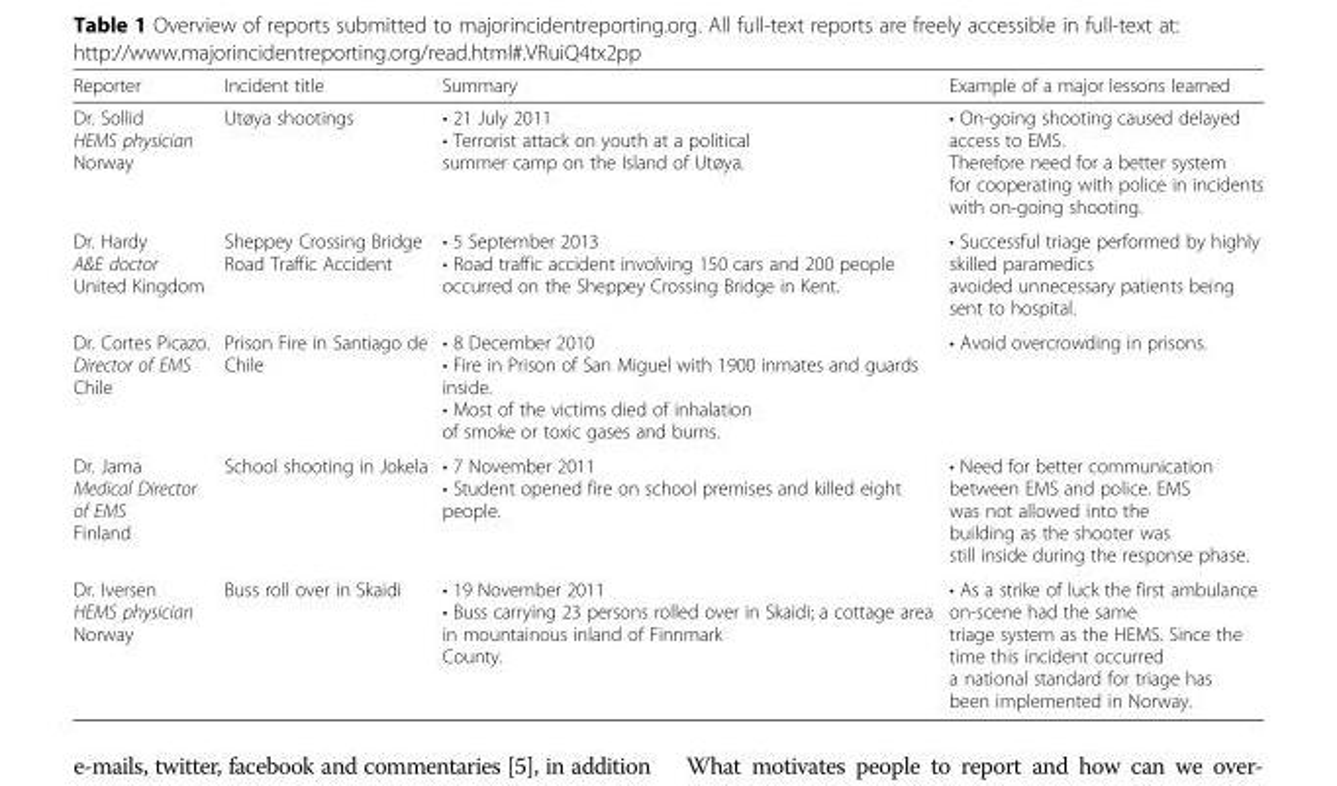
<table><thead><tr><td>Reporter</td><td>Incident title</td><td>Summary</td><td>Example of a major lessons learned</td></tr></thead><tbody><tr><td rowspan="2">Dr. Sollid HEMS physician Norway</td><td rowspan="2">Utøya shootings</td><td>• 21 July 2011</td><td rowspan="2">• On-going shooting caused delayed access to EMS. Therefore need for a better system for cooperating with police in incidents with on-going shooting.</td></tr><tr><td>• Terrorist attack on youth at a political summer camp on the Island of Utøya.</td></tr><tr><td rowspan="2">Dr. Hardy A&amp;E doctor United Kingdom</td><td rowspan="2">Sheppey Crossing Bridge Road Traffic Accident</td><td>• 5 September 2013</td><td rowspan="2">• Successful triage performed by highly skilled paramedics avoided unnecessary patients being sent to hospital.</td></tr><tr><td>• Road traffic accident involving 150 cars and 200 people occurred on the Sheppey Crossing Bridge in Kent.</td></tr><tr><td rowspan="3">Dr. Cortes Picazo. Director of EMS Chile</td><td rowspan="3">Prison Fire in Santiago de Chile</td><td>• 8 December 2010</td><td rowspan="3">• Avoid overcrowding in prisons.</td></tr><tr><td>• Fire in Prison of San Miguel with 1900 inmates and guards inside.</td></tr><tr><td>• Most of the victims died of inhalation of smoke or toxic gases and burns.</td></tr><tr><td rowspan="2">Dr. Jama Medical Director of EMS Finland</td><td rowspan="2">School shooting in Jokela</td><td>• 7 November 2011</td><td rowspan="2">• Need for better communication between EMS and police. EMS was not allowed into the building as the shooter was still inside during the response phase.</td></tr><tr><td>• Student opened fire on school premises and killed eight people.</td></tr><tr><td rowspan="2">Dr. Iversen HEMS physician Norway</td><td rowspan="2">Buss roll over in Skaidi</td><td>• 19 November 2011</td><td rowspan="2">• As a strike of luck the first ambulance on-scene had the same triage system as the HEMS. Since the time this incident occurred a national standard for triage has been implemented in Norway.</td></tr><tr><td>• Buss carrying 23 persons rolled over in Skaidi; a cottage area in mountainous inland of Finnmark County.</td></tr></tbody></table>